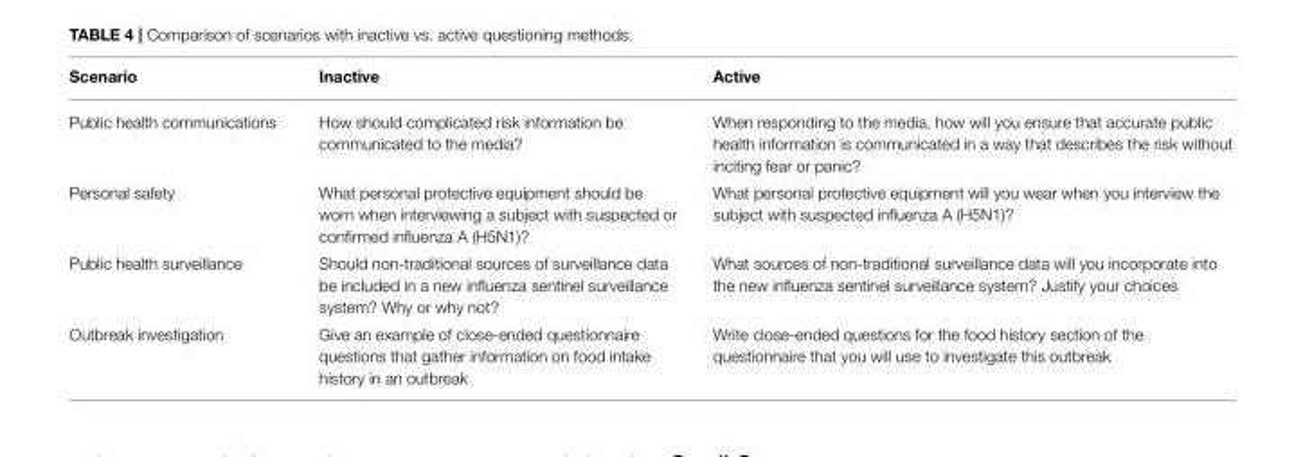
<table><thead><tr><td>Scenario</td><td>Inactive</td><td>Active</td></tr></thead><tbody><tr><td>Public health communications</td><td>How should complicated risk information be communicated to the media?</td><td>When responding to the media, how will you ensure that accurate public health information is communicated in a way that describes the risk without inciting fear or panic?</td></tr><tr><td>Personal safety</td><td>What personal protective equipment should be worn when interviewing a subject with suspected or confirmed influenza A (H5N1)?</td><td>What personal protective equipment will you wear when you interview the subject with suspected influenza A (H5N1)?</td></tr><tr><td>Public health surveillance</td><td>Should non-traditional sources of surveillance data be included in a new influenza sentinel surveillance system? Why or why not?</td><td>What sources of non-traditional surveillance data will you incorporate into the new influenza sentinel surveillance system? Justify your choices</td></tr><tr><td>Outbreak investigation</td><td>Give an example of close-ended questionnaire questions that gather information on food intake history in an outbreak</td><td>Write close-ended questions for the food history section of the questionnaire that you will use to investigate this outbreak</td></tr></tbody></table>